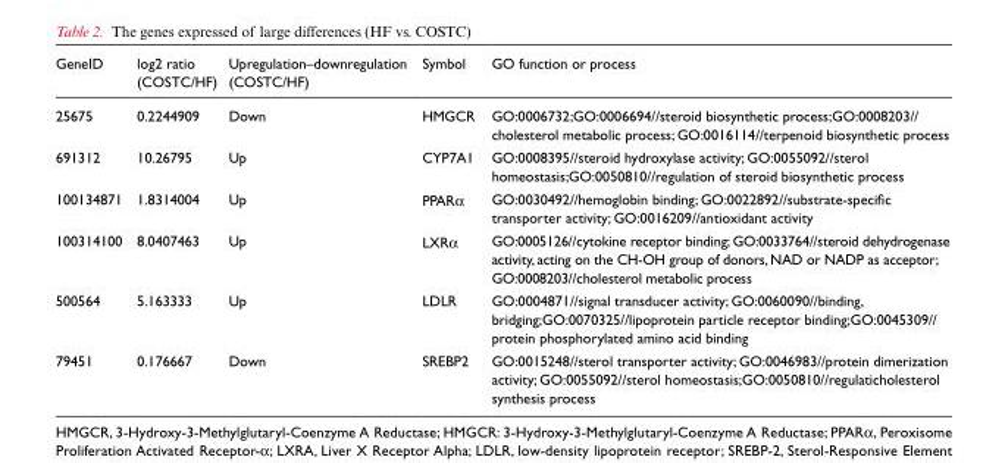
<table><thead><tr><td>GeneID</td><td>log2 ratio (COSTC/HF)</td><td>Upregulation–downregulation (COSTC/HF)</td><td>Symbol</td><td>GO function or process</td></tr></thead><tbody><tr><td>25675</td><td>0.2244909</td><td>Down</td><td>HMGCR</td><td>GO:0006732;GO:0006694//steroid biosynthetic process;GO:0008203// cholesterol metabolic process; GO:0016114//terpenoid biosynthetic process</td></tr><tr><td>691312</td><td>10.26795</td><td>Up</td><td>CYP7A1</td><td>GO:0008395//steroid hydroxylase activity; GO:0055092//sterol homeostasis;GO:0050810//regulation of steroid biosynthetic process</td></tr><tr><td>100134871</td><td>1.8314004</td><td>Up</td><td>PPARα</td><td>GO:0030492//hemoglobin binding; GO:0022892//substrate-specific transporter activity; GO:0016209//antioxidant activity</td></tr><tr><td>100314100</td><td>8.0407463</td><td>Up</td><td>LXRα</td><td>GO:0005126//cytokine receptor binding; GO:0033764//steroid dehydrogenase activity, acting on the CH-OH group of donors, NAD or NADP as acceptor; GO:0008203//cholesterol metabolic process</td></tr><tr><td>500564</td><td>5.163333</td><td>Up</td><td>LDLR</td><td>GO:0004871//signal transducer activity; GO:0060090//binding, bridging;GO:0070325//lipoprotein particle receptor binding;GO:0045309// protein phosphorylated amino acid binding</td></tr><tr><td>79451</td><td>0.176667</td><td>Down</td><td>SREBP2</td><td>GO:0015248//sterol transporter activity; GO:0046983//protein dimerization activity; GO:0055092//sterol homeostasis;GO:0050810//regulaticholesterol synthesis process</td></tr></tbody></table>